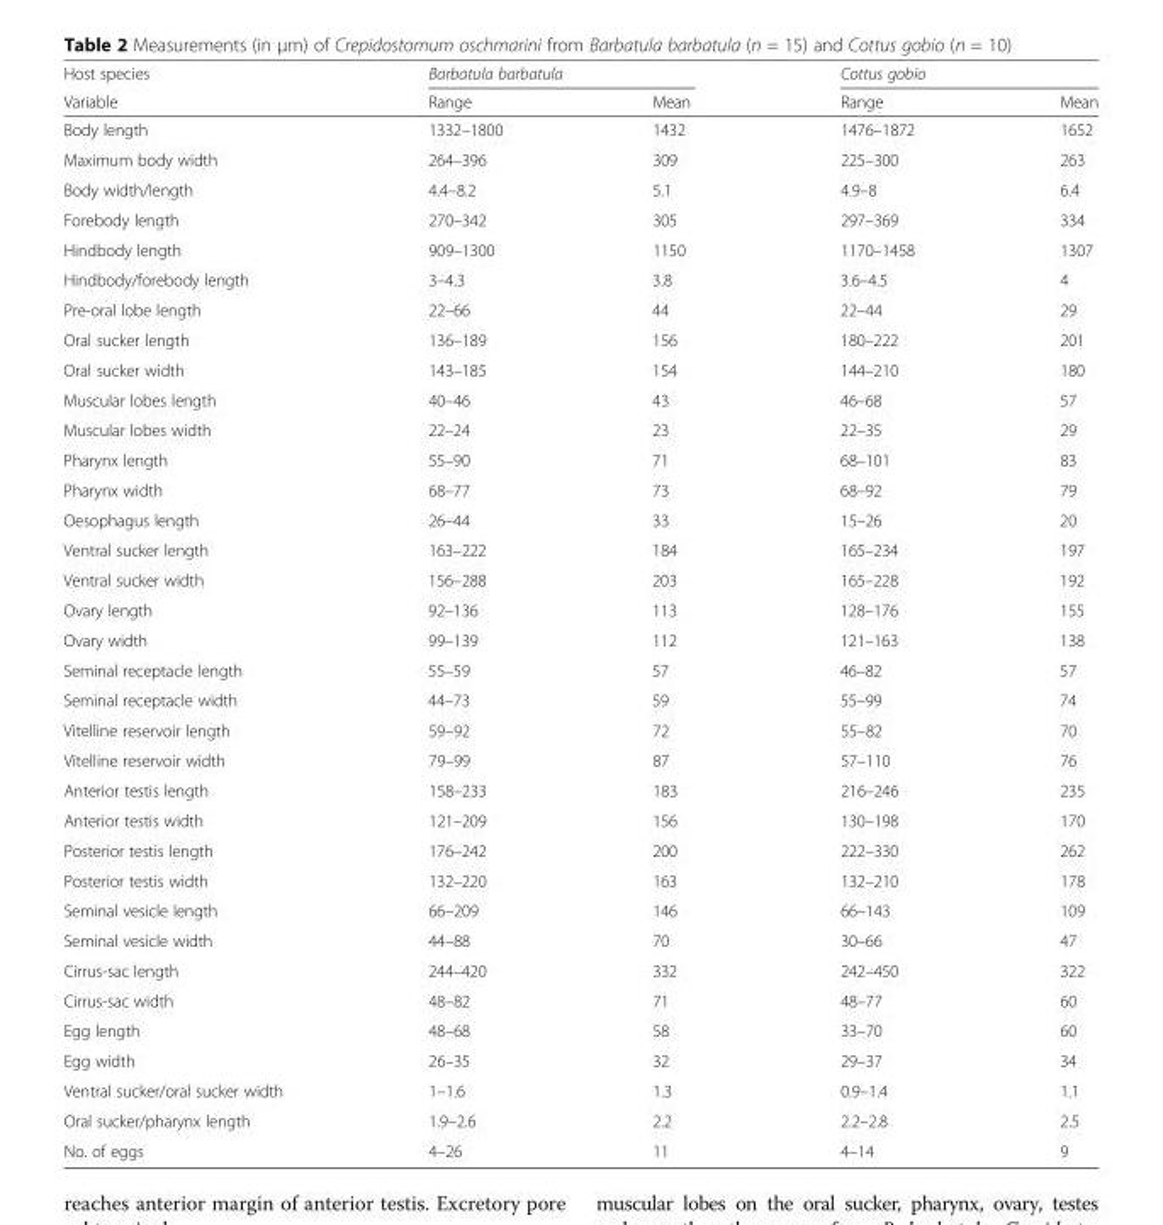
<table><thead><tr><td rowspan="2">Host species Variable</td><td colspan="2">Barbatula barbatula</td><td colspan="2">Cottus gobio</td></tr><tr><td>Range</td><td>Mean</td><td>Range</td><td>Mean</td></tr></thead><tbody><tr><td>Body length</td><td>1332–1800</td><td>1432</td><td>1476–1872</td><td>1652</td></tr><tr><td>Maximum body width</td><td>264–396</td><td>309</td><td>225–300</td><td>263</td></tr><tr><td>Body width/length</td><td>4.4–8.2</td><td>5.1</td><td>4.9–8</td><td>6.4</td></tr><tr><td>Forebody length</td><td>270–342</td><td>305</td><td>297–369</td><td>334</td></tr><tr><td>Hindbody length</td><td>909–1300</td><td>1150</td><td>1170–1458</td><td>1307</td></tr><tr><td>Hindbody/forebody length</td><td>3–4.3</td><td>3.8</td><td>3.6–4.5</td><td>4</td></tr><tr><td>Pre-oral lobe length</td><td>22–66</td><td>44</td><td>22–44</td><td>29</td></tr><tr><td>Oral sucker length</td><td>136–189</td><td>156</td><td>180–222</td><td>201</td></tr><tr><td>Oral sucker width</td><td>143–185</td><td>154</td><td>144–210</td><td>180</td></tr><tr><td>Muscular lobes length</td><td>40–46</td><td>43</td><td>46–68</td><td>57</td></tr><tr><td>Muscular lobes width</td><td>22–24</td><td>23</td><td>22–35</td><td>29</td></tr><tr><td>Pharynx length</td><td>55–90</td><td>71</td><td>68–101</td><td>83</td></tr><tr><td>Pharynx width</td><td>68–77</td><td>73</td><td>68–92</td><td>79</td></tr><tr><td>Oesophagus length</td><td>26–44</td><td>33</td><td>15–26</td><td>20</td></tr><tr><td>Ventral sucker length</td><td>163–222</td><td>184</td><td>165–234</td><td>197</td></tr><tr><td>Ventral sucker width</td><td>156–288</td><td>203</td><td>165–228</td><td>192</td></tr><tr><td>Ovary length</td><td>92–136</td><td>113</td><td>128–176</td><td>155</td></tr><tr><td>Ovary width</td><td>99–139</td><td>112</td><td>121–163</td><td>138</td></tr><tr><td>Seminal receptacle length</td><td>55–59</td><td>57</td><td>46–82</td><td>57</td></tr><tr><td>Seminal receptacle width</td><td>44–73</td><td>59</td><td>55–99</td><td>74</td></tr><tr><td>Vitelline reservoir length</td><td>59–92</td><td>72</td><td>55–82</td><td>70</td></tr><tr><td>Vitelline reservoir width</td><td>79–99</td><td>87</td><td>57–110</td><td>76</td></tr><tr><td>Anterior testis length</td><td>158–233</td><td>183</td><td>216–246</td><td>235</td></tr><tr><td>Anterior testis width</td><td>121–209</td><td>156</td><td>130–198</td><td>170</td></tr><tr><td>Posterior testis length</td><td>176–242</td><td>200</td><td>222–330</td><td>262</td></tr><tr><td>Posterior testis width</td><td>132–220</td><td>163</td><td>132–210</td><td>178</td></tr><tr><td>Seminal vesicle length</td><td>66–209</td><td>146</td><td>66–143</td><td>109</td></tr><tr><td>Seminal vesicle width</td><td>44–88</td><td>70</td><td>30–66</td><td>47</td></tr><tr><td>Cirrus-sac length</td><td>244–420</td><td>332</td><td>242–450</td><td>322</td></tr><tr><td>Cirrus-sac width</td><td>48–82</td><td>71</td><td>48–77</td><td>60</td></tr><tr><td>Egg length</td><td>48–68</td><td>58</td><td>33–70</td><td>60</td></tr><tr><td>Egg width</td><td>26–35</td><td>32</td><td>29–37</td><td>34</td></tr><tr><td>Ventral sucker/oral sucker width</td><td>1–1.6</td><td>1.3</td><td>0.9–1.4</td><td>1.1</td></tr><tr><td>Oral sucker/pharynx length</td><td>1.9–2.6</td><td>2.2</td><td>2.2–2.8</td><td>2.5</td></tr><tr><td>No. of eggs</td><td>4–26</td><td>11</td><td>4–14</td><td>9</td></tr></tbody></table>